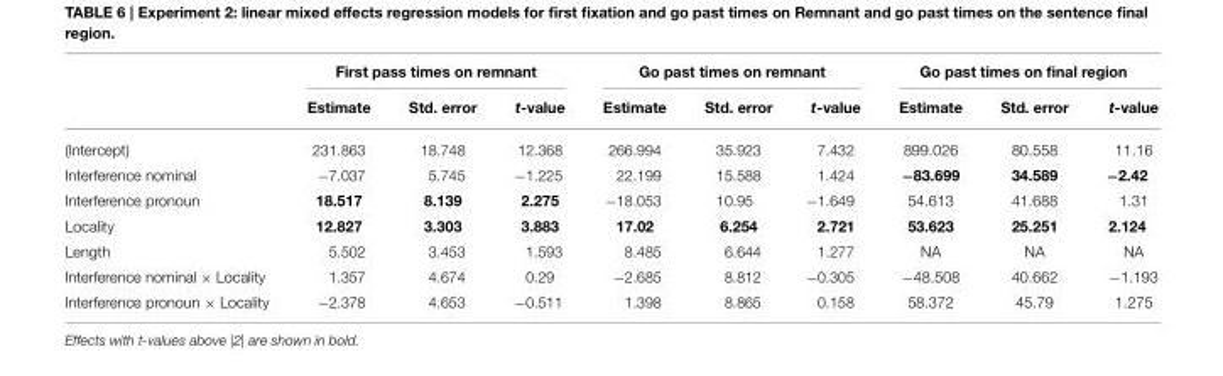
<table><thead><tr><td rowspan="2"></td><td colspan="3">First pass times on remnant</td><td colspan="3">Go past times on remnant</td><td colspan="3">Go past times on final region</td></tr><tr><td>Estimate</td><td>Std. error</td><td>t-value</td><td>Estimate</td><td>Std. error</td><td>t-value</td><td>Estimate</td><td>Std. error</td><td>t-value</td></tr></thead><tbody><tr><td>(Intercept)</td><td>231.863</td><td>18.748</td><td>12.368</td><td>266.994</td><td>35.923</td><td>7.432</td><td>899.026</td><td>80.558</td><td>11.16</td></tr><tr><td>Interference nominal</td><td>−7.037</td><td>5.745</td><td>−1.225</td><td>22.199</td><td>15.588</td><td>1.424</td><td>−83.699</td><td>34.589</td><td>−2.42</td></tr><tr><td>Interference pronoun</td><td>18.517</td><td>8.139</td><td>2.275</td><td>−18.053</td><td>10.95</td><td>−1.649</td><td>54.613</td><td>41.688</td><td>1.31</td></tr><tr><td>Locality</td><td>12.827</td><td>3.303</td><td>3.883</td><td>17.02</td><td>6.254</td><td>2.721</td><td>53.623</td><td>25.251</td><td>2.124</td></tr><tr><td>Length</td><td>5.502</td><td>3.453</td><td>1.593</td><td>8.485</td><td>6.644</td><td>1.277</td><td>NA</td><td>NA</td><td>NA</td></tr><tr><td>Interference nominal × Locality</td><td>1.357</td><td>4.674</td><td>0.29</td><td>−2.685</td><td>8.812</td><td>−0.305</td><td>−48.508</td><td>40.662</td><td>−1.193</td></tr><tr><td>Interference pronoun × Locality</td><td>−2.378</td><td>4.653</td><td>−0.511</td><td>1.398</td><td>8.865</td><td>0.158</td><td>58.372</td><td>45.79</td><td>1.275</td></tr></tbody></table>